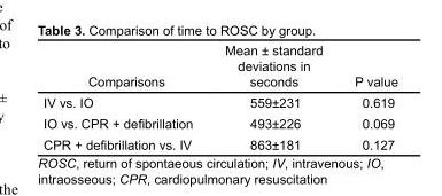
<table><thead><tr><td>Comparisons</td><td>Mean ± standard deviations in seconds</td><td>P value</td></tr></thead><tbody><tr><td>IV vs. IO</td><td>559±231</td><td>0.619</td></tr><tr><td>IO vs. CPR + defibrillation</td><td>493±226</td><td>0.069</td></tr><tr><td>CPR + defibrillation vs. IV</td><td>863±181</td><td>0.127</td></tr></tbody></table>